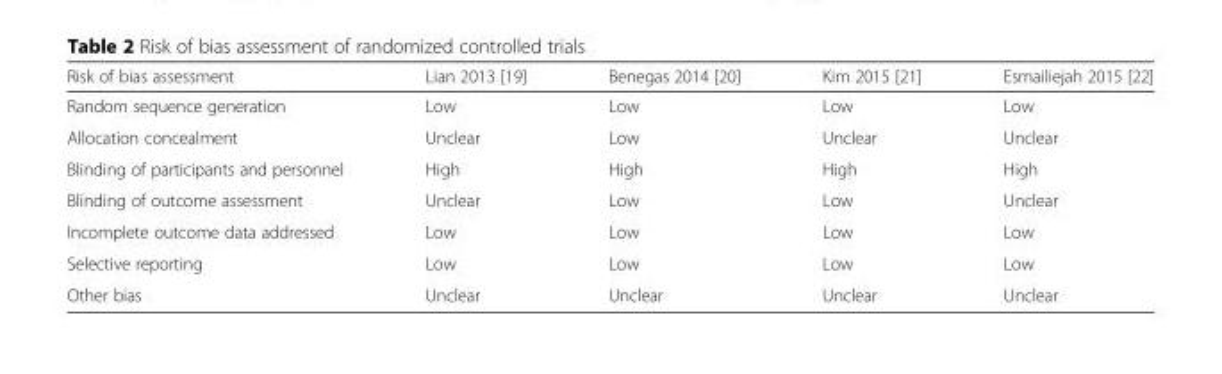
<table><thead><tr><td>Risk of bias assessment</td><td>Lian 2013 [19]</td><td>Benegas 2014 [20]</td><td>Kim 2015 [21]</td><td>Esmailiejah 2015 [22]</td></tr></thead><tbody><tr><td>Random sequence generation</td><td>Low</td><td>Low</td><td>Low</td><td>Low</td></tr><tr><td>Allocation concealment</td><td>Unclear</td><td>Low</td><td>Unclear</td><td>Unclear</td></tr><tr><td>Blinding of participants and personnel</td><td>High</td><td>High</td><td>High</td><td>High</td></tr><tr><td>Blinding of outcome assessment</td><td>Unclear</td><td>Low</td><td>Low</td><td>Unclear</td></tr><tr><td>Incomplete outcome data addressed</td><td>Low</td><td>Low</td><td>Low</td><td>Low</td></tr><tr><td>Selective reporting</td><td>Low</td><td>Low</td><td>Low</td><td>Low</td></tr><tr><td>Other bias</td><td>Unclear</td><td>Unclear</td><td>Unclear</td><td>Unclear</td></tr></tbody></table>